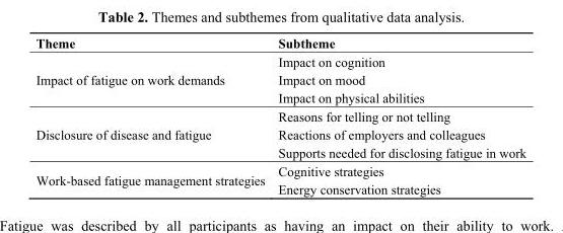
<table><thead><tr><td>Theme</td><td>Subtheme</td></tr></thead><tbody><tr><td>Impact of fatigue on work demands</td><td>Impact on cognition Impact on mood Impact on physical abilities</td></tr><tr><td>Disclosure of disease and fatigue</td><td>Reasons for telling or not telling Reactions of employers and colleagues Supports needed for disclosing fatigue in work</td></tr><tr><td>Work-based fatigue management strategies</td><td>Cognitive strategies Energy conservation strategies</td></tr></tbody></table>